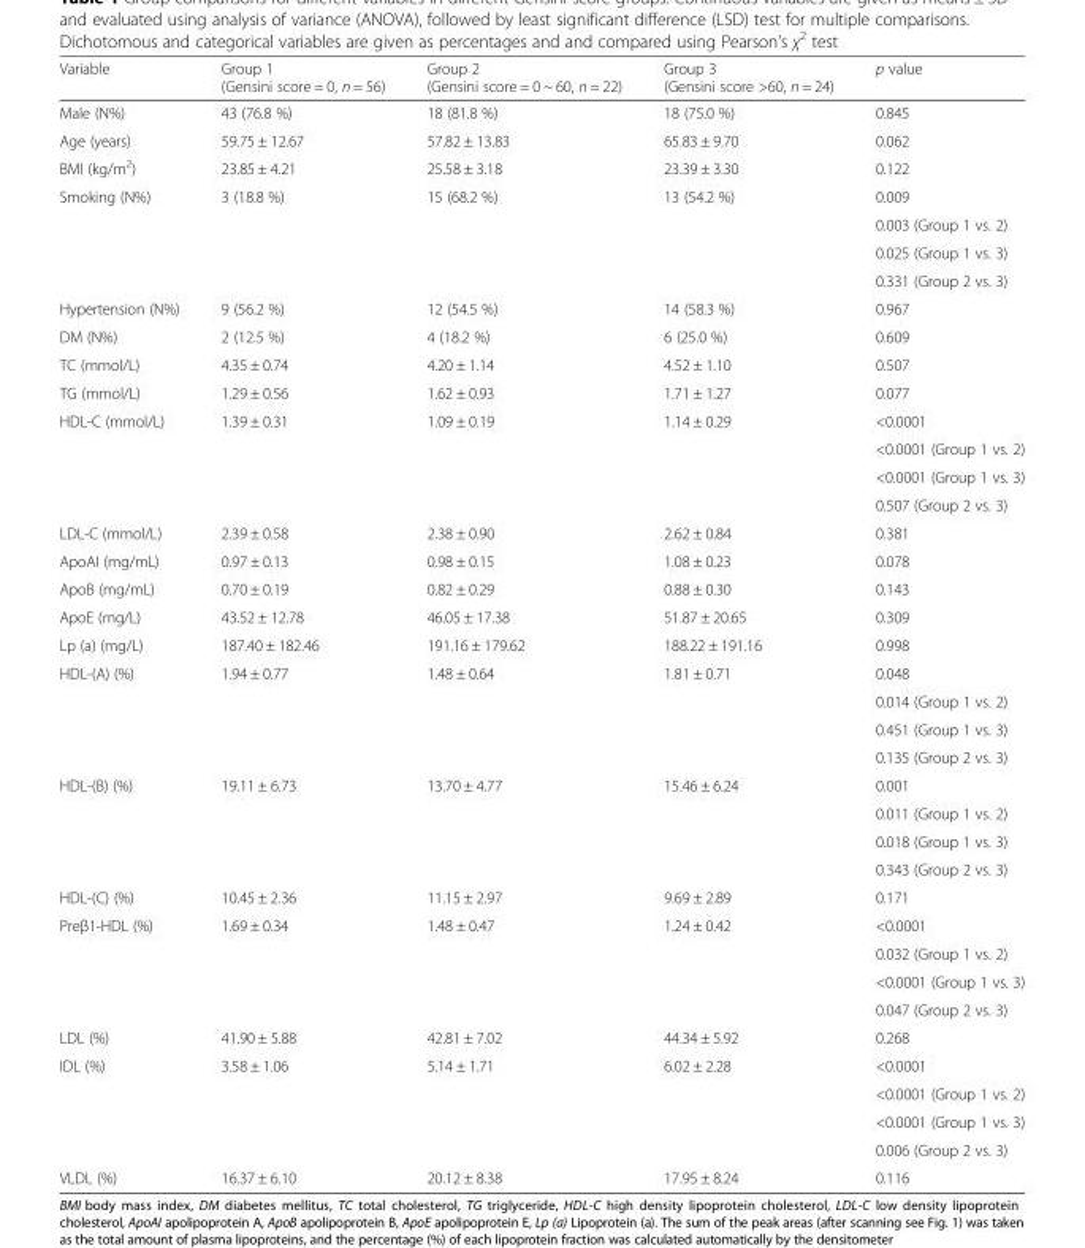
<table><thead><tr><td>Variable</td><td>Group 1 (Gensini score = 0, n = 56)</td><td>Group 2 (Gensini score = 0 ~ 60, n = 22)</td><td>Group 3 (Gensini score &gt;60, n = 24)</td><td>p value</td></tr></thead><tbody><tr><td>Male (N%)</td><td>43 (76.8 %)</td><td>18 (81.8 %)</td><td>18 (75.0 %)</td><td>0.845</td></tr><tr><td>Age (years)</td><td>59.75 ± 12.67</td><td>57.82 ± 13.83</td><td>65.83 ± 9.70</td><td>0.062</td></tr><tr><td>BMI (kg/m<sup>2</sup>)</td><td>23.85 ± 4.21</td><td>25.58 ± 3.18</td><td>23.39 ± 3.30</td><td>0.122</td></tr><tr><td rowspan="4">Smoking (N%)</td><td rowspan="4">3 (18.8 %)</td><td rowspan="4">15 (68.2 %)</td><td rowspan="4">13 (54.2 %)</td><td>0.009</td></tr><tr><td>0.003 (Group 1 vs. 2)</td></tr><tr><td>0.025 (Group 1 vs. 3)</td></tr><tr><td>0.331 (Group 2 vs. 3)</td></tr><tr><td>Hypertension (N%)</td><td>9 (56.2 %)</td><td>12 (54.5 %)</td><td>14 (58.3 %)</td><td>0.967</td></tr><tr><td>DM (N%)</td><td>2 (12.5 %)</td><td>4 (18.2 %)</td><td>6 (25.0 %)</td><td>0.609</td></tr><tr><td>TC (mmol/L)</td><td>4.35 ± 0.74</td><td>4.20 ± 1.14</td><td>4.52 ± 1.10</td><td>0.507</td></tr><tr><td>TG (mmol/L)</td><td>1.29 ± 0.56</td><td>1.62 ± 0.93</td><td>1.71 ± 1.27</td><td>0.077</td></tr><tr><td rowspan="4">HDL-C (mmol/L)</td><td rowspan="4">1.39 ± 0.31</td><td rowspan="4">1.09 ± 0.19</td><td rowspan="4">1.14 ± 0.29</td><td>&lt;0.0001</td></tr><tr><td>&lt;0.0001 (Group 1 vs. 2)</td></tr><tr><td>&lt;0.0001 (Group 1 vs. 3)</td></tr><tr><td>0.507 (Group 2 vs. 3)</td></tr><tr><td>LDL-C (mmol/L)</td><td>2.39 ± 0.58</td><td>2.38 ± 0.90</td><td>2.62 ± 0.84</td><td>0.381</td></tr><tr><td>ApoAI (mg/mL)</td><td>0.97 ± 0.13</td><td>0.98 ± 0.15</td><td>1.08 ± 0.23</td><td>0.078</td></tr><tr><td>ApoB (mg/mL)</td><td>0.70 ± 0.19</td><td>0.82 ± 0.29</td><td>0.88 ± 0.30</td><td>0.143</td></tr><tr><td>ApoE (mg/L)</td><td>43.52 ± 12.78</td><td>46.05 ± 17.38</td><td>51.87 ± 20.65</td><td>0.309</td></tr><tr><td>Lp (a) (mg/L)</td><td>187.40 ± 182.46</td><td>191.16 ± 179.62</td><td>188.22 ± 191.16</td><td>0.998</td></tr><tr><td rowspan="4">HDL-(A) (%)</td><td rowspan="4">1.94 ± 0.77</td><td rowspan="4">1.48 ± 0.64</td><td rowspan="4">1.81 ± 0.71</td><td>0.048</td></tr><tr><td>0.014 (Group 1 vs. 2)</td></tr><tr><td>0.451 (Group 1 vs. 3)</td></tr><tr><td>0.135 (Group 2 vs. 3)</td></tr><tr><td rowspan="4">HDL-(B) (%)</td><td rowspan="4">19.11 ± 6.73</td><td rowspan="4">13.70 ± 4.77</td><td rowspan="4">15.46 ± 6.24</td><td>0.001</td></tr><tr><td>0.011 (Group 1 vs. 2)</td></tr><tr><td>0.018 (Group 1 vs. 3)</td></tr><tr><td>0.343 (Group 2 vs. 3)</td></tr><tr><td>HDL-(C) (%)</td><td>10.45 ± 2.36</td><td>11.15 ± 2.97</td><td>9.69 ± 2.89</td><td>0.171</td></tr><tr><td rowspan="4">Preβ1-HDL (%)</td><td rowspan="4">1.69 ± 0.34</td><td rowspan="4">1.48 ± 0.47</td><td rowspan="4">1.24 ± 0.42</td><td>&lt;0.0001</td></tr><tr><td>0.032 (Group 1 vs. 2)</td></tr><tr><td>&lt;0.0001 (Group 1 vs. 3)</td></tr><tr><td>0.047 (Group 2 vs. 3)</td></tr><tr><td>LDL (%)</td><td>41.90 ± 5.88</td><td>42.81 ± 7.02</td><td>44.34 ± 5.92</td><td>0.268</td></tr><tr><td rowspan="4">IDL (%)</td><td rowspan="4">3.58 ± 1.06</td><td rowspan="4">5.14 ± 1.71</td><td rowspan="4">6.02 ± 2.28</td><td>&lt;0.0001</td></tr><tr><td>&lt;0.0001 (Group 1 vs. 2)</td></tr><tr><td>&lt;0.0001 (Group 1 vs. 3)</td></tr><tr><td>0.006 (Group 2 vs. 3)</td></tr><tr><td>VLDL (%)</td><td>16.37 ± 6.10</td><td>20.12 ± 8.38</td><td>17.95 ± 8.24</td><td>0.116</td></tr></tbody></table>